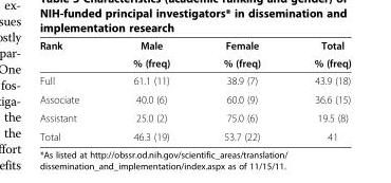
<table><thead><tr><td rowspan="2">Rank</td><td rowspan="2">Male % (freq)</td><td rowspan="2">Female % (freq)</td><td rowspan="2">Total % (freq)</td></tr><tr></tr></thead><tbody><tr><td>Full</td><td>61.1 (11)</td><td>38.9 (7)</td><td>43.9 (18)</td></tr><tr><td>Associate</td><td>40.0 (6)</td><td>60.0 (9)</td><td>36.6 (15)</td></tr><tr><td>Assistant</td><td>25.0 (2)</td><td>75.0 (6)</td><td>19.5 (8)</td></tr><tr><td>Total</td><td>46.3 (19)</td><td>53.7 (22)</td><td>41</td></tr></tbody></table>